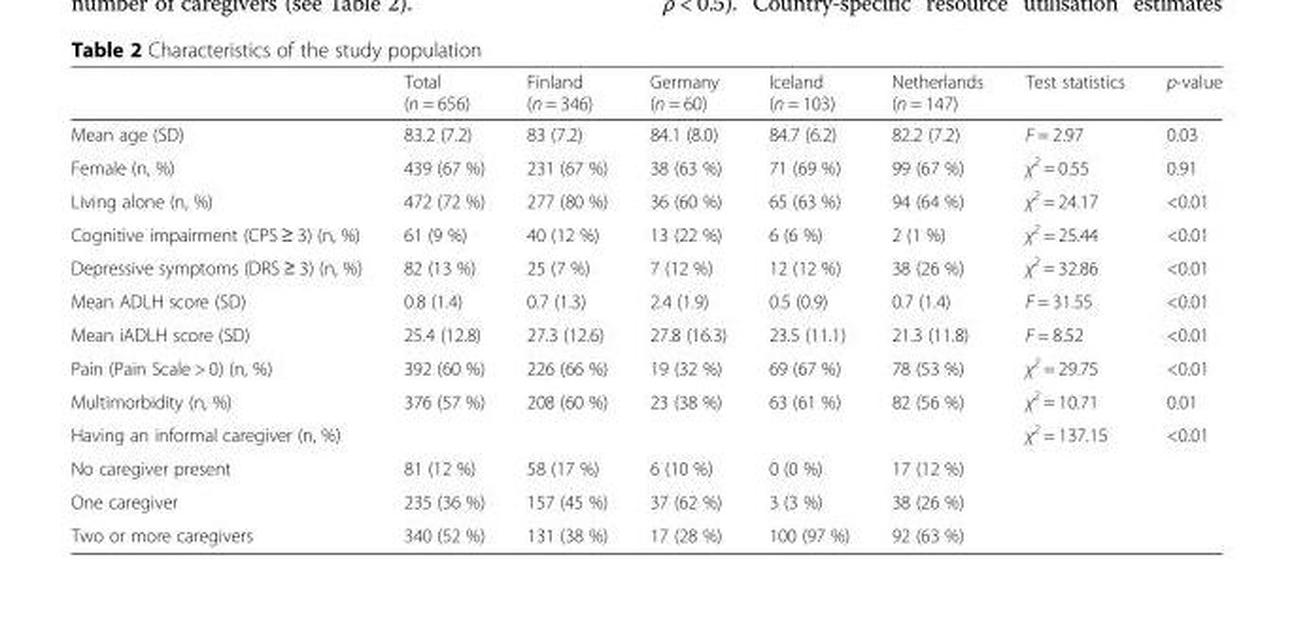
<table><thead><tr><td></td><td>Total (n = 656)</td><td>Finland (n = 346)</td><td>Germany (n = 60)</td><td>Iceland (n = 103)</td><td>Netherlands (n = 147)</td><td>Test statistics</td><td>p-value</td></tr></thead><tbody><tr><td>Mean age (SD)</td><td>83.2 (7.2)</td><td>83 (7.2)</td><td>84.1 (8.0)</td><td>84.7 (6.2)</td><td>82.2 (7.2)</td><td>F = 2.97</td><td>0.03</td></tr><tr><td>Female (n, %)</td><td>439 (67 %)</td><td>231 (67 %)</td><td>38 (63 %)</td><td>71 (69 %)</td><td>99 (67 %)</td><td>χ<sup>2</sup> = 0.55</td><td>0.91</td></tr><tr><td>Living alone (n, %)</td><td>472 (72 %)</td><td>277 (80 %)</td><td>36 (60 %)</td><td>65 (63 %)</td><td>94 (64 %)</td><td>χ<sup>2</sup> = 24.17</td><td>&lt;0.01</td></tr><tr><td>Cognitive impairment (CPS ≥ 3) (n, %)</td><td>61 (9 %)</td><td>40 (12 %)</td><td>13 (22 %)</td><td>6 (6 %)</td><td>2 (1 %)</td><td>χ<sup>2</sup> = 25.44</td><td>&lt;0.01</td></tr><tr><td>Depressive symptoms (DRS ≥ 3) (n, %)</td><td>82 (13 %)</td><td>25 (7 %)</td><td>7 (12 %)</td><td>12 (12 %)</td><td>38 (26 %)</td><td>χ<sup>2</sup> = 32.86</td><td>&lt;0.01</td></tr><tr><td>Mean ADLH score (SD)</td><td>0.8 (1.4)</td><td>0.7 (1.3)</td><td>2.4 (1.9)</td><td>0.5 (0.9)</td><td>0.7 (1.4)</td><td>F = 31.55</td><td>&lt;0.01</td></tr><tr><td>Mean iADLH score (SD)</td><td>25.4 (12.8)</td><td>27.3 (12.6)</td><td>27.8 (16.3)</td><td>23.5 (11.1)</td><td>21.3 (11.8)</td><td>F = 8.52</td><td>&lt;0.01</td></tr><tr><td>Pain (Pain Scale &gt; 0) (n, %)</td><td>392 (60 %)</td><td>226 (66 %)</td><td>19 (32 %)</td><td>69 (67 %)</td><td>78 (53 %)</td><td>χ<sup>2</sup> = 29.75</td><td>&lt;0.01</td></tr><tr><td>Multimorbidity (n, %)</td><td>376 (57 %)</td><td>208 (60 %)</td><td>23 (38 %)</td><td>63 (61 %)</td><td>82 (56 %)</td><td>χ<sup>2</sup> = 10.71</td><td>0.01</td></tr><tr><td>Having an informal caregiver (n, %)</td><td></td><td></td><td></td><td></td><td></td><td>χ<sup>2</sup> = 137.15</td><td>&lt;0.01</td></tr><tr><td>No caregiver present</td><td>81 (12 %)</td><td>58 (17 %)</td><td>6 (10 %)</td><td>0 (0 %)</td><td>17 (12 %)</td><td></td><td></td></tr><tr><td>One caregiver</td><td>235 (36 %)</td><td>157 (45 %)</td><td>37 (62 %)</td><td>3 (3 %)</td><td>38 (26 %)</td><td></td><td></td></tr><tr><td>Two or more caregivers</td><td>340 (52 %)</td><td>131 (38 %)</td><td>17 (28 %)</td><td>100 (97 %)</td><td>92 (63 %)</td><td></td><td></td></tr></tbody></table>